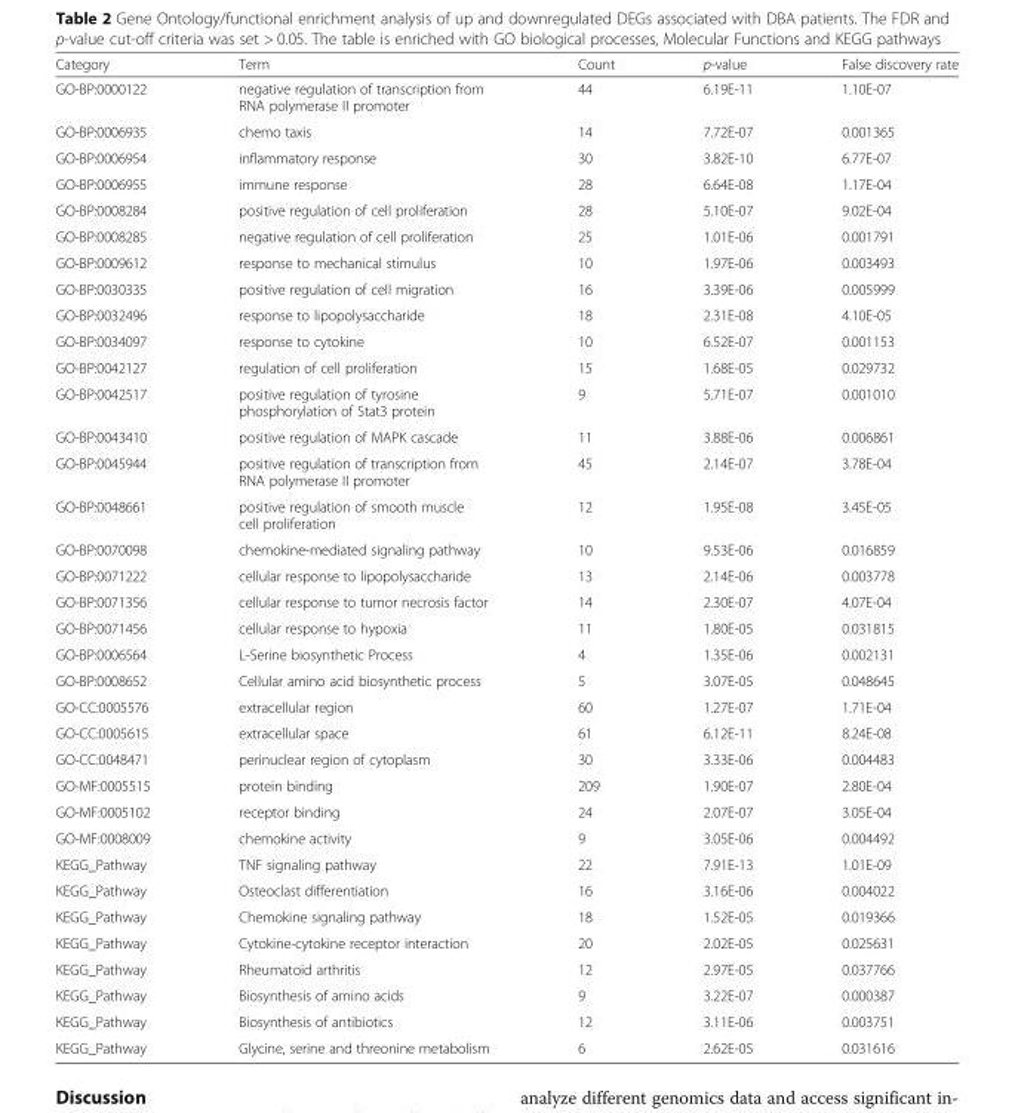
<table><thead><tr><td>Category</td><td>Term</td><td>Count</td><td>p-value</td><td>False discovery rate</td></tr></thead><tbody><tr><td>GO-BP:0000122</td><td>negative regulation of transcription from RNA polymerase II promoter</td><td>44</td><td>6.19E-11</td><td>1.10E-07</td></tr><tr><td>GO-BP:0006935</td><td>chemo taxis</td><td>14</td><td>7.72E-07</td><td>0.001365</td></tr><tr><td>GO-BP:0006954</td><td>inflammatory response</td><td>30</td><td>3.82E-10</td><td>6.77E-07</td></tr><tr><td>GO-BP:0006955</td><td>immune response</td><td>28</td><td>6.64E-08</td><td>1.17E-04</td></tr><tr><td>GO-BP:0008284</td><td>positive regulation of cell proliferation</td><td>28</td><td>5.10E-07</td><td>9.02E-04</td></tr><tr><td>GO-BP:0008285</td><td>negative regulation of cell proliferation</td><td>25</td><td>1.01E-06</td><td>0.001791</td></tr><tr><td>GO-BP:0009612</td><td>response to mechanical stimulus</td><td>10</td><td>1.97E-06</td><td>0.003493</td></tr><tr><td>GO-BP:0030335</td><td>positive regulation of cell migration</td><td>16</td><td>3.39E-06</td><td>0.005999</td></tr><tr><td>GO-BP:0032496</td><td>response to lipopolysaccharide</td><td>18</td><td>2.31E-08</td><td>4.10E-05</td></tr><tr><td>GO-BP:0034097</td><td>response to cytokine</td><td>10</td><td>6.52E-07</td><td>0.001153</td></tr><tr><td>GO-BP:0042127</td><td>regulation of cell proliferation</td><td>15</td><td>1.68E-05</td><td>0.029732</td></tr><tr><td>GO-BP:0042517</td><td>positive regulation of tyrosine phosphorylation of Stat3 protein</td><td>9</td><td>5.71E-07</td><td>0.001010</td></tr><tr><td>GO-BP:0043410</td><td>positive regulation of MAPK cascade</td><td>11</td><td>3.88E-06</td><td>0.006861</td></tr><tr><td>GO-BP:0045944</td><td>positive regulation of transcription from RNA polymerase II promoter</td><td>45</td><td>2.14E-07</td><td>3.78E-04</td></tr><tr><td>GO-BP:0048661</td><td>positive regulation of smooth muscle cell proliferation</td><td>12</td><td>1.95E-08</td><td>3.45E-05</td></tr><tr><td>GO-BP:0070098</td><td>chemokine-mediated signaling pathway</td><td>10</td><td>9.53E-06</td><td>0.016859</td></tr><tr><td>GO-BP:0071222</td><td>cellular response to lipopolysaccharide</td><td>13</td><td>2.14E-06</td><td>0.003778</td></tr><tr><td>GO-BP:0071356</td><td>cellular response to tumor necrosis factor</td><td>14</td><td>2.30E-07</td><td>4.07E-04</td></tr><tr><td>GO-BP:0071456</td><td>cellular response to hypoxia</td><td>11</td><td>1.80E-05</td><td>0.031815</td></tr><tr><td>GO-BP:0006564</td><td>L-Serine biosynthetic Process</td><td>4</td><td>1.35E-06</td><td>0.002131</td></tr><tr><td>GO-BP:0008652</td><td>Cellular amino acid biosynthetic process</td><td>5</td><td>3.07E-05</td><td>0.048645</td></tr><tr><td>GO-CC:0005576</td><td>extracellular region</td><td>60</td><td>1.27E-07</td><td>1.71E-04</td></tr><tr><td>GO-CC:0005615</td><td>extracellular space</td><td>61</td><td>6.12E-11</td><td>8.24E-08</td></tr><tr><td>GO-CC:0048471</td><td>perinuclear region of cytoplasm</td><td>30</td><td>3.33E-06</td><td>0.004483</td></tr><tr><td>GO-MF:0005515</td><td>protein binding</td><td>209</td><td>1.90E-07</td><td>2.80E-04</td></tr><tr><td>GO-MF:0005102</td><td>receptor binding</td><td>24</td><td>2.07E-07</td><td>3.05E-04</td></tr><tr><td>GO-MF:0008009</td><td>chemokine activity</td><td>9</td><td>3.05E-06</td><td>0.004492</td></tr><tr><td>KEGG_Pathway</td><td>TNF signaling pathway</td><td>22</td><td>7.91E-13</td><td>1.01E-09</td></tr><tr><td>KEGG_Pathway</td><td>Osteoclast differentiation</td><td>16</td><td>3.16E-06</td><td>0.004022</td></tr><tr><td>KEGG_Pathway</td><td>Chemokine signaling pathway</td><td>18</td><td>1.52E-05</td><td>0.019366</td></tr><tr><td>KEGG_Pathway</td><td>Cytokine-cytokine receptor interaction</td><td>20</td><td>2.02E-05</td><td>0.025631</td></tr><tr><td>KEGG_Pathway</td><td>Rheumatoid arthritis</td><td>12</td><td>2.97E-05</td><td>0.037766</td></tr><tr><td>KEGG_Pathway</td><td>Biosynthesis of amino acids</td><td>9</td><td>3.22E-07</td><td>0.000387</td></tr><tr><td>KEGG_Pathway</td><td>Biosynthesis of antibiotics</td><td>12</td><td>3.11E-06</td><td>0.003751</td></tr><tr><td>KEGG_Pathway</td><td>Glycine, serine and threonine metabolism</td><td>6</td><td>2.62E-05</td><td>0.031616</td></tr></tbody></table>